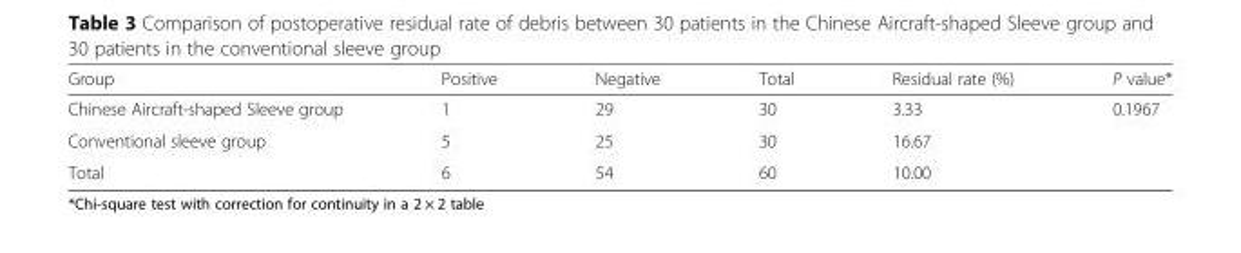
<table><thead><tr><td>Group</td><td>Positive</td><td>Negative</td><td>Total</td><td>Residual rate (%)</td><td>P value*</td></tr></thead><tbody><tr><td>Chinese Aircraft-shaped Sleeve group</td><td>1</td><td>29</td><td>30</td><td>3.33</td><td rowspan="3">0.1967</td></tr><tr><td>Conventional sleeve group</td><td>5</td><td>25</td><td>30</td><td>16.67</td></tr><tr><td>Total</td><td>6</td><td>54</td><td>60</td><td>10.00</td></tr></tbody></table>